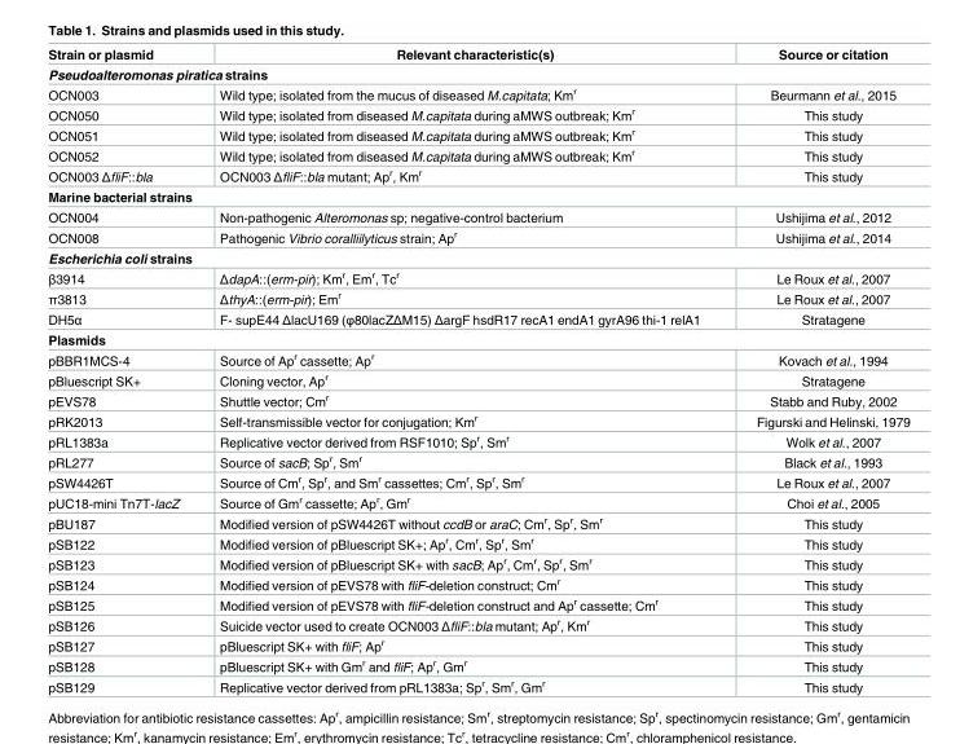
<table><thead><tr><td>Strain or plasmid</td><td>Relevant characteristic(s)</td><td>Source or citation</td></tr></thead><tbody><tr><td colspan="3">Pseudoalteromonas piratica strains</td></tr><tr><td>OCN003</td><td>Wild type; isolated from the mucus of diseased M.capitata; Km<sup>r</sup></td><td>Beurmann et al., 2015</td></tr><tr><td>OCN050</td><td>Wild type; isolated from diseased M.capitata during aMWS outbreak; Km<sup>r</sup></td><td>This study</td></tr><tr><td>OCN051</td><td>Wild type; isolated from diseased M.capitata during aMWS outbreak; Km<sup>r</sup></td><td>This study</td></tr><tr><td>OCN052</td><td>Wild type; isolated from diseased M.capitata during aMWS outbreak; Km<sup>r</sup></td><td>This study</td></tr><tr><td>OCN003 ΔfliF::bla</td><td>OCN003 ΔfliF::bla mutant; Ap<sup>r</sup>, Km<sup>r</sup></td><td>This study</td></tr><tr><td colspan="3">Marine bacterial strains</td></tr><tr><td>OCN004</td><td>Non-pathogenic Alteromonas sp; negative-control bacterium</td><td>Ushijima et al., 2012</td></tr><tr><td>OCN008</td><td>Pathogenic Vibrio coralliilyticus strain; Ap<sup>r</sup></td><td>Ushijima et al., 2014</td></tr><tr><td colspan="3">Escherichia coli strains</td></tr><tr><td>β3914</td><td>ΔdapA::(erm-pir); Km<sup>r</sup>, Em<sup>r</sup>, Tc<sup>r</sup></td><td>Le Roux et al., 2007</td></tr><tr><td>π3813</td><td>ΔthyA::(erm-pir); Em<sup>r</sup></td><td>Le Roux et al., 2007</td></tr><tr><td>DH5α</td><td>F- supE44 ΔlacU169 (φ80lacZΔM15) ΔargF hsdR17 recA1 endA1 gyrA96 thi-1 relA1</td><td>Stratagene</td></tr><tr><td colspan="3">Plasmids</td></tr><tr><td>pBBR1MCS-4</td><td>Source of Ap<sup>r</sup> cassette; Ap<sup>r</sup></td><td>Kovach et al., 1994</td></tr><tr><td>pBluescript SK+</td><td>Cloning vector, Ap<sup>r</sup></td><td>Stratagene</td></tr><tr><td>pEVS78</td><td>Shuttle vector; Cm<sup>r</sup></td><td>Stabb and Ruby, 2002</td></tr><tr><td>pRK2013</td><td>Self-transmissible vector for conjugation; Km<sup>r</sup></td><td>Figurski and Helinski, 1979</td></tr><tr><td>pRL1383a</td><td>Replicative vector derived from RSF1010; Sp<sup>r</sup>, Sm<sup>r</sup></td><td>Wolk et al., 2007</td></tr><tr><td>pRL277</td><td>Source of sacB; Sp<sup>r</sup>, Sm<sup>r</sup></td><td>Black et al., 1993</td></tr><tr><td>pSW4426T</td><td>Source of Cm<sup>r</sup>, Sp<sup>r</sup>, and Sm<sup>r</sup> cassettes; Cm<sup>r</sup>, Sp<sup>r</sup>, Sm<sup>r</sup></td><td>Le Roux et al., 2007</td></tr><tr><td>pUC18-mini Tn7T-lacZ</td><td>Source of Gm<sup>r</sup> cassette; Ap<sup>r</sup>, Gm<sup>r</sup></td><td>Choi et al., 2005</td></tr><tr><td>pBU187</td><td>Modified version of pSW4426T without ccdB or araC; Cm<sup>r</sup>, Sp<sup>r</sup>, Sm<sup>r</sup></td><td>This study</td></tr><tr><td>pSB122</td><td>Modified version of pBluescript SK+; Ap<sup>r</sup>, Cm<sup>r</sup>, Sp<sup>r</sup>, Sm<sup>r</sup></td><td>This study</td></tr><tr><td>pSB123</td><td>Modified version of pBluescript SK+ with sacB; Ap<sup>r</sup>, Cm<sup>r</sup>, Sp<sup>r</sup>, Sm<sup>r</sup></td><td>This study</td></tr><tr><td>pSB124</td><td>Modified version of pEVS78 with fliF-deletion construct; Cm<sup>r</sup></td><td>This study</td></tr><tr><td>pSB125</td><td>Modified version of pEVS78 with fliF-deletion construct and Ap<sup>r</sup> cassette; Cm<sup>r</sup></td><td>This study</td></tr><tr><td>pSB126</td><td>Suicide vector used to create OCN003 ΔfliF::bla mutant; Ap<sup>r</sup>, Km<sup>r</sup></td><td>This study</td></tr><tr><td>pSB127</td><td>pBluescript SK+ with fliF; Ap<sup>r</sup></td><td>This study</td></tr><tr><td>pSB128</td><td>pBluescript SK+ with Gm<sup>r</sup> and fliF; Ap<sup>r</sup>, Gm<sup>r</sup></td><td>This study</td></tr><tr><td>pSB129</td><td>Replicative vector derived from pRL1383a; Sp<sup>r</sup>, Sm<sup>r</sup>, Gm<sup>r</sup></td><td>This study</td></tr></tbody></table>